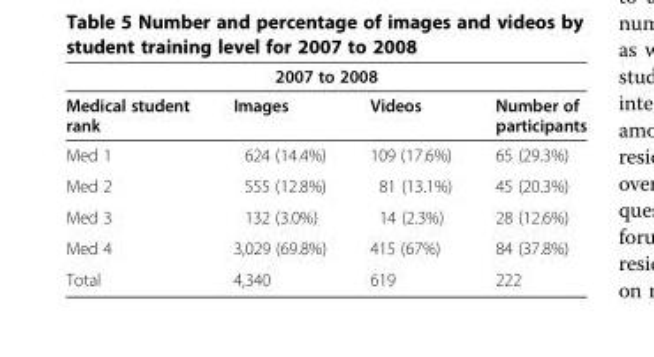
<table><thead><tr><td colspan="4">2007 to 2008</td></tr><tr><td>Medical student rank</td><td>Images</td><td>Videos</td><td>Number of participants</td></tr></thead><tbody><tr><td>Med 1</td><td>624 (14.4%)</td><td>109 (17.6%)</td><td>65 (29.3%)</td></tr><tr><td>Med 2</td><td>555 (12.8%)</td><td>81 (13.1%)</td><td>45 (20.3%)</td></tr><tr><td>Med 3</td><td>132 (3.0%)</td><td>14 (2.3%)</td><td>28 (12.6%)</td></tr><tr><td>Med 4</td><td>3,029 (69.8%)</td><td>415 (67%)</td><td>84 (37.8%)</td></tr><tr><td>Total</td><td>4,340</td><td>619</td><td>222</td></tr></tbody></table>